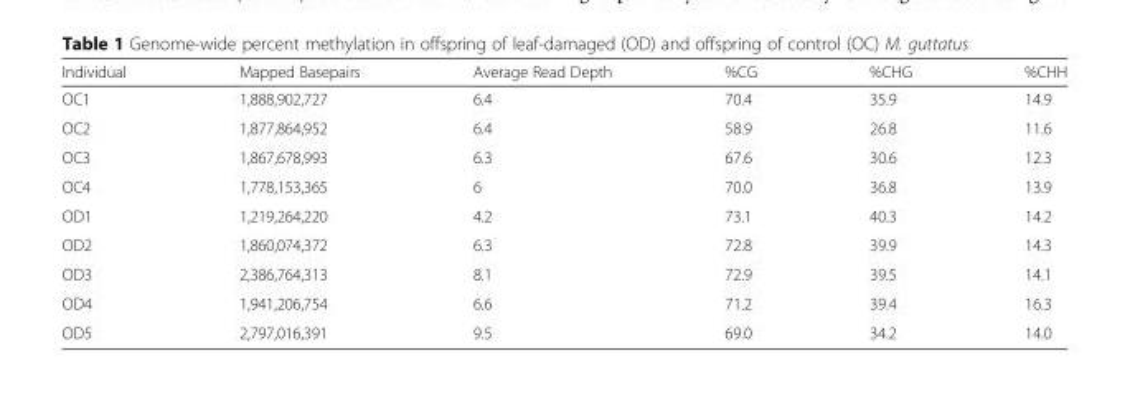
<table><thead><tr><td>Individual</td><td>Mapped Basepairs</td><td>Average Read Depth</td><td>%CG</td><td>%CHG</td><td>%CHH</td></tr></thead><tbody><tr><td>OC1</td><td>1,888,902,727</td><td>6.4</td><td>70.4</td><td>35.9</td><td>14.9</td></tr><tr><td>OC2</td><td>1,877,864,952</td><td>6.4</td><td>58.9</td><td>26.8</td><td>11.6</td></tr><tr><td>OC3</td><td>1,867,678,993</td><td>6.3</td><td>67.6</td><td>30.6</td><td>12.3</td></tr><tr><td>OC4</td><td>1,778,153,365</td><td>6</td><td>70.0</td><td>36.8</td><td>13.9</td></tr><tr><td>OD1</td><td>1,219,264,220</td><td>4.2</td><td>73.1</td><td>40.3</td><td>14.2</td></tr><tr><td>OD2</td><td>1,860,074,372</td><td>6.3</td><td>72.8</td><td>39.9</td><td>14.3</td></tr><tr><td>OD3</td><td>2,386,764,313</td><td>8.1</td><td>72.9</td><td>39.5</td><td>14.1</td></tr><tr><td>OD4</td><td>1,941,206,754</td><td>6.6</td><td>71.2</td><td>39.4</td><td>16.3</td></tr><tr><td>OD5</td><td>2,797,016,391</td><td>9.5</td><td>69.0</td><td>34.2</td><td>14.0</td></tr></tbody></table>